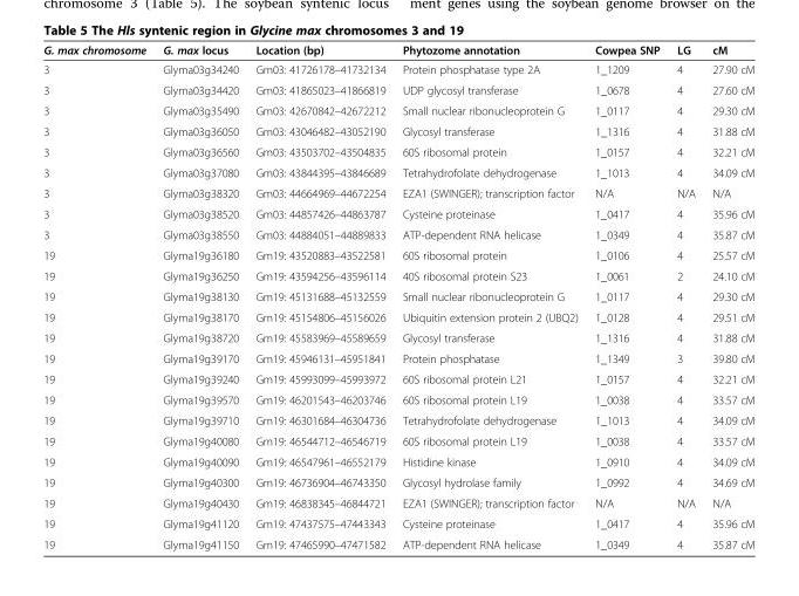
<table><thead><tr><td>G. max chromosome</td><td>G. max locus</td><td>Location (bp)</td><td>Phytozome annotation</td><td>Cowpea SNP</td><td>LG</td><td>cM</td></tr></thead><tbody><tr><td>3</td><td>Glyma03g34240</td><td>Gm03: 41726178–41732134</td><td>Protein phosphatase type 2A</td><td>1_1209</td><td>4</td><td>27.90 cM</td></tr><tr><td>3</td><td>Glyma03g34420</td><td>Gm03: 41865023–41866819</td><td>UDP glycosyl transferase</td><td>1_0678</td><td>4</td><td>27.60 cM</td></tr><tr><td>3</td><td>Glyma03g35490</td><td>Gm03: 42670842–42672212</td><td>Small nuclear ribonucleoprotein G</td><td>1_0117</td><td>4</td><td>29.30 cM</td></tr><tr><td>3</td><td>Glyma03g36050</td><td>Gm03: 43046482–43052190</td><td>Glycosyl transferase</td><td>1_1316</td><td>4</td><td>31.88 cM</td></tr><tr><td>3</td><td>Glyma03g36560</td><td>Gm03: 43503702–43504835</td><td>60S ribosomal protein</td><td>1_0157</td><td>4</td><td>32.21 cM</td></tr><tr><td>3</td><td>Glyma03g37080</td><td>Gm03: 43844395–43846689</td><td>Tetrahydrofolate dehydrogenase</td><td>1_1013</td><td>4</td><td>34.09 cM</td></tr><tr><td>3</td><td>Glyma03g38320</td><td>Gm03: 44664969–44672254</td><td>EZA1 (SWINGER); transcription factor</td><td>N/A</td><td>N/A</td><td>N/A</td></tr><tr><td>3</td><td>Glyma03g38520</td><td>Gm03: 44857426–44863787</td><td>Cysteine proteinase</td><td>1_0417</td><td>4</td><td>35.96 cM</td></tr><tr><td>3</td><td>Glyma03g38550</td><td>Gm03: 44884051–44889833</td><td>ATP-dependent RNA helicase</td><td>1_0349</td><td>4</td><td>35.87 cM</td></tr><tr><td>19</td><td>Glyma19g36180</td><td>Gm19: 43520883–43522581</td><td>60S ribosomal protein</td><td>1_0106</td><td>4</td><td>25.57 cM</td></tr><tr><td>19</td><td>Glyma19g36250</td><td>Gm19: 43594256–43596114</td><td>40S ribosomal protein S23</td><td>1_0061</td><td>2</td><td>24.10 cM</td></tr><tr><td>19</td><td>Glyma19g38130</td><td>Gm19: 45131688–45132559</td><td>Small nuclear ribonucleoprotein G</td><td>1_0117</td><td>4</td><td>29.30 cM</td></tr><tr><td>19</td><td>Glyma19g38170</td><td>Gm19: 45154806–45156026</td><td>Ubiquitin extension protein 2 (UBQ2)</td><td>1_0128</td><td>4</td><td>29.51 cM</td></tr><tr><td>19</td><td>Glyma19g38720</td><td>Gm19: 45583969–45589659</td><td>Glycosyl transferase</td><td>1_1316</td><td>4</td><td>31.88 cM</td></tr><tr><td>19</td><td>Glyma19g39170</td><td>Gm19: 45946131–45951841</td><td>Protein phosphatase</td><td>1_1349</td><td>3</td><td>39.80 cM</td></tr><tr><td>19</td><td>Glyma19g39240</td><td>Gm19: 45993099–45993972</td><td>60S ribosomal protein L21</td><td>1_0157</td><td>4</td><td>32.21 cM</td></tr><tr><td>19</td><td>Glyma19g39570</td><td>Gm19: 46201543–46203746</td><td>60S ribosomal protein L19</td><td>1_0038</td><td>4</td><td>33.57 cM</td></tr><tr><td>19</td><td>Glyma19g39710</td><td>Gm19: 46301684–46304736</td><td>Tetrahydrofolate dehydrogenase</td><td>1_1013</td><td>4</td><td>34.09 cM</td></tr><tr><td>19</td><td>Glyma19g40080</td><td>Gm19: 46544712–46546719</td><td>60S ribosomal protein L19</td><td>1_0038</td><td>4</td><td>33.57 cM</td></tr><tr><td>19</td><td>Glyma19g40090</td><td>Gm19: 46547961–46552179</td><td>Histidine kinase</td><td>1_0910</td><td>4</td><td>34.09 cM</td></tr><tr><td>19</td><td>Glyma19g40300</td><td>Gm19: 46736904–46743350</td><td>Glycosyl hydrolase family</td><td>1_0992</td><td>4</td><td>34.69 cM</td></tr><tr><td>19</td><td>Glyma19g40430</td><td>Gm19: 46838345–46844721</td><td>EZA1 (SWINGER); transcription factor</td><td>N/A</td><td>N/A</td><td>N/A</td></tr><tr><td>19</td><td>Glyma19g41120</td><td>Gm19: 47437575–47443343</td><td>Cysteine proteinase</td><td>1_0417</td><td>4</td><td>35.96 cM</td></tr><tr><td>19</td><td>Glyma19g41150</td><td>Gm19: 47465990–47471582</td><td>ATP-dependent RNA helicase</td><td>1_0349</td><td>4</td><td>35.87 cM</td></tr></tbody></table>